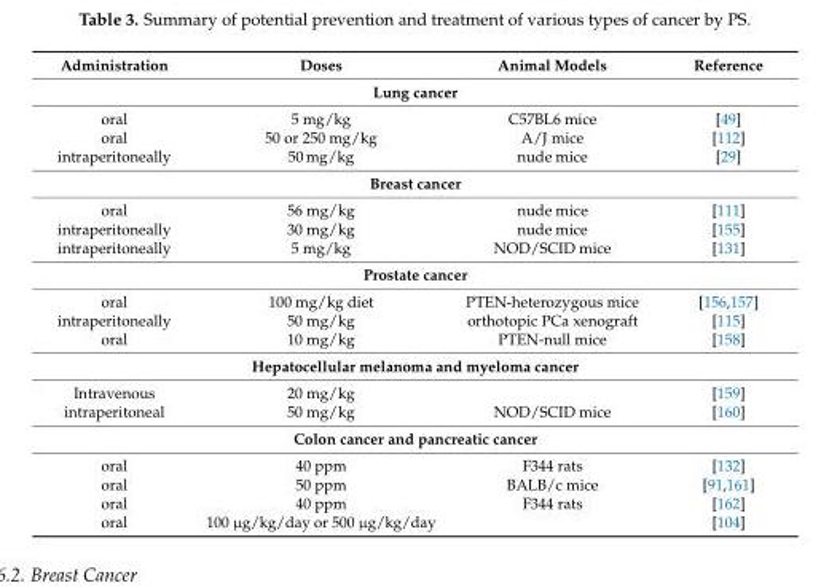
<table><thead><tr><td>Administration</td><td>Doses</td><td>Animal Models</td><td>Reference</td></tr></thead><tbody><tr><td colspan="4">Lung cancer</td></tr><tr><td>oral</td><td>5 mg/kg</td><td>C57BL6 mice</td><td>[49]</td></tr><tr><td>oral</td><td>50 or 250 mg/kg</td><td>A/J mice</td><td>[112]</td></tr><tr><td>intraperitoneally</td><td>50 mg/kg</td><td>nude mice</td><td>[29]</td></tr><tr><td colspan="4">Breast cancer</td></tr><tr><td>oral</td><td>56 mg/kg</td><td>nude mice</td><td>[111]</td></tr><tr><td>intraperitoneally</td><td>30 mg/kg</td><td>nude mice</td><td>[155]</td></tr><tr><td>intraperitoneally</td><td>5 mg/kg</td><td>NOD/SCID mice</td><td>[131]</td></tr><tr><td colspan="4">Prostate cancer</td></tr><tr><td>oral</td><td>100 mg/kg diet</td><td>PTEN-heterozygous mice</td><td>[156,157]</td></tr><tr><td>intraperitoneally</td><td>50 mg/kg</td><td>orthotopic PCa xenograft</td><td>[115]</td></tr><tr><td>oral</td><td>10 mg/kg</td><td>PTEN-null mice</td><td>[158]</td></tr><tr><td colspan="4">Hepatocellular melanoma and myeloma cancer</td></tr><tr><td>Intravenous</td><td>20 mg/kg</td><td></td><td>[159]</td></tr><tr><td>intraperitoneal</td><td>50 mg/kg</td><td>NOD/SCID mice</td><td>[160]</td></tr><tr><td colspan="4">Colon cancer and pancreatic cancer</td></tr><tr><td>oral</td><td>40 ppm</td><td>F344 rats</td><td>[132]</td></tr><tr><td>oral</td><td>50 ppm</td><td>BALB/c mice</td><td>[91,161]</td></tr><tr><td>oral</td><td>40 ppm</td><td>F344 rats</td><td>[162]</td></tr><tr><td>oral</td><td>100 µg/kg/day or 500 µg/kg/day</td><td></td><td>[104]</td></tr></tbody></table>